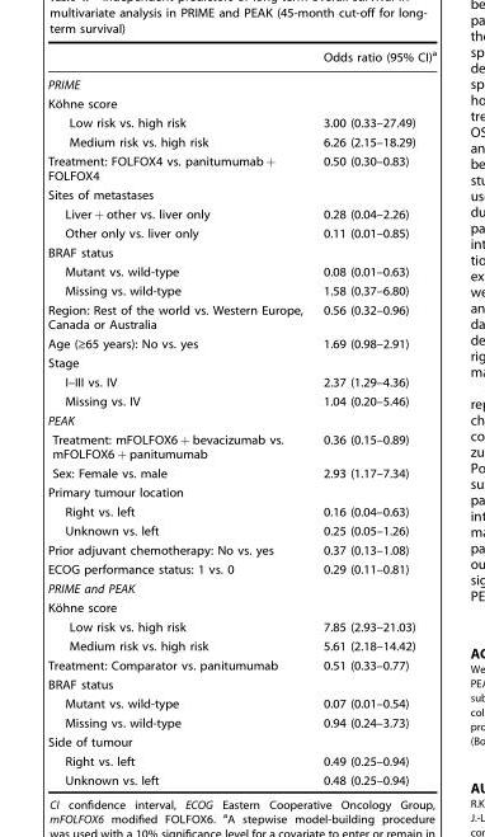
<table><thead><tr><td></td><td>Odds ratio (95% CI)<sup>a</sup></td></tr></thead><tbody><tr><td colspan="2">PRIME</td></tr><tr><td colspan="2">Köhne score</td></tr><tr><td>Low risk vs. high risk</td><td>3.00 (0.33–27.49)</td></tr><tr><td>Medium risk vs. high risk</td><td>6.26 (2.15–18.29)</td></tr><tr><td>Treatment: FOLFOX4 vs. panitumumab + FOLFOX4</td><td>0.50 (0.30–0.83)</td></tr><tr><td colspan="2">Sites of metastases</td></tr><tr><td>Liver + other vs. liver only</td><td>0.28 (0.04–2.26)</td></tr><tr><td>Other only vs. liver only</td><td>0.11 (0.01–0.85)</td></tr><tr><td colspan="2">BRAF status</td></tr><tr><td>Mutant vs. wild-type</td><td>0.08 (0.01–0.63)</td></tr><tr><td>Missing vs. wild-type</td><td>1.58 (0.37–6.80)</td></tr><tr><td>Region: Rest of the world vs. Western Europe, Canada or Australia</td><td>0.56 (0.32–0.96)</td></tr><tr><td>Age (≥65 years): No vs. yes</td><td>1.69 (0.98–2.91)</td></tr><tr><td colspan="2">Stage</td></tr><tr><td>I–III vs. IV</td><td>2.37 (1.29–4.36)</td></tr><tr><td>Missing vs. IV</td><td>1.04 (0.20–5.46)</td></tr><tr><td colspan="2">PEAK</td></tr><tr><td>Treatment: mFOLFOX6 + bevacizumab vs. mFOLFOX6 + panitumumab</td><td>0.36 (0.15–0.89)</td></tr><tr><td>Sex: Female vs. male</td><td>2.93 (1.17–7.34)</td></tr><tr><td colspan="2">Primary tumour location</td></tr><tr><td>Right vs. left</td><td>0.16 (0.04–0.63)</td></tr><tr><td>Unknown vs. left</td><td>0.25 (0.05–1.26)</td></tr><tr><td>Prior adjuvant chemotherapy: No vs. yes</td><td>0.37 (0.13–1.08)</td></tr><tr><td>ECOG performance status: 1 vs. 0</td><td>0.29 (0.11–0.81)</td></tr><tr><td colspan="2">PRIME and PEAK</td></tr><tr><td colspan="2">Köhne score</td></tr><tr><td>Low risk vs. high risk</td><td>7.85 (2.93–21.03)</td></tr><tr><td>Medium risk vs. high risk</td><td>5.61 (2.18–14.42)</td></tr><tr><td>Treatment: Comparator vs. panitumumab</td><td>0.51 (0.33–0.77)</td></tr><tr><td colspan="2">BRAF status</td></tr><tr><td>Mutant vs. wild-type</td><td>0.07 (0.01–0.54)</td></tr><tr><td>Missing vs. wild-type</td><td>0.94 (0.24–3.73)</td></tr><tr><td colspan="2">Side of tumour</td></tr><tr><td>Right vs. left</td><td>0.49 (0.25–0.94)</td></tr><tr><td>Unknown vs. left</td><td>0.48 (0.25–0.94)</td></tr></tbody></table>